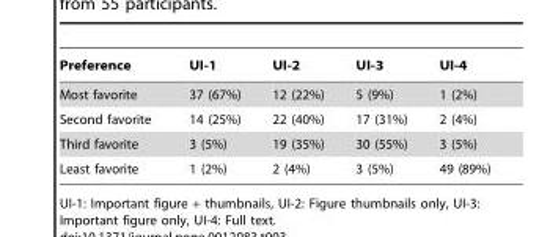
<table><thead><tr><td>Preference</td><td>UI-1</td><td>UI-2</td><td>UI-3</td><td>UI-4</td></tr></thead><tbody><tr><td>Most favorite</td><td>37 (67%)</td><td>12 (22%)</td><td>5 (9%)</td><td>1 (2%)</td></tr><tr><td>Second favorite</td><td>14 (25%)</td><td>22 (40%)</td><td>17 (31%)</td><td>2 (4%)</td></tr><tr><td>Third favorite</td><td>3 (5%)</td><td>19 (35%)</td><td>30 (55%)</td><td>3 (5%)</td></tr><tr><td>Least favorite</td><td>1 (2%)</td><td>2 (4%)</td><td>3 (5%)</td><td>49 (89%)</td></tr></tbody></table>